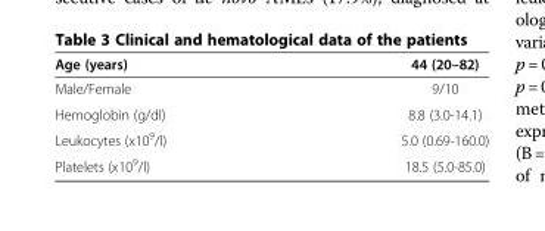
<table><thead><tr><td>Age (years)</td><td>44 (20–82)</td></tr></thead><tbody><tr><td>Male/Female</td><td>9/10</td></tr><tr><td>Hemoglobin (g/dl)</td><td>8.8 (3.0-14.1)</td></tr><tr><td>Leukocytes (x10<sup>9</sup>/l)</td><td>5.0 (0.69-160.0)</td></tr><tr><td>Platelets (x10<sup>9</sup>/l)</td><td>18.5 (5.0-85.0)</td></tr></tbody></table>